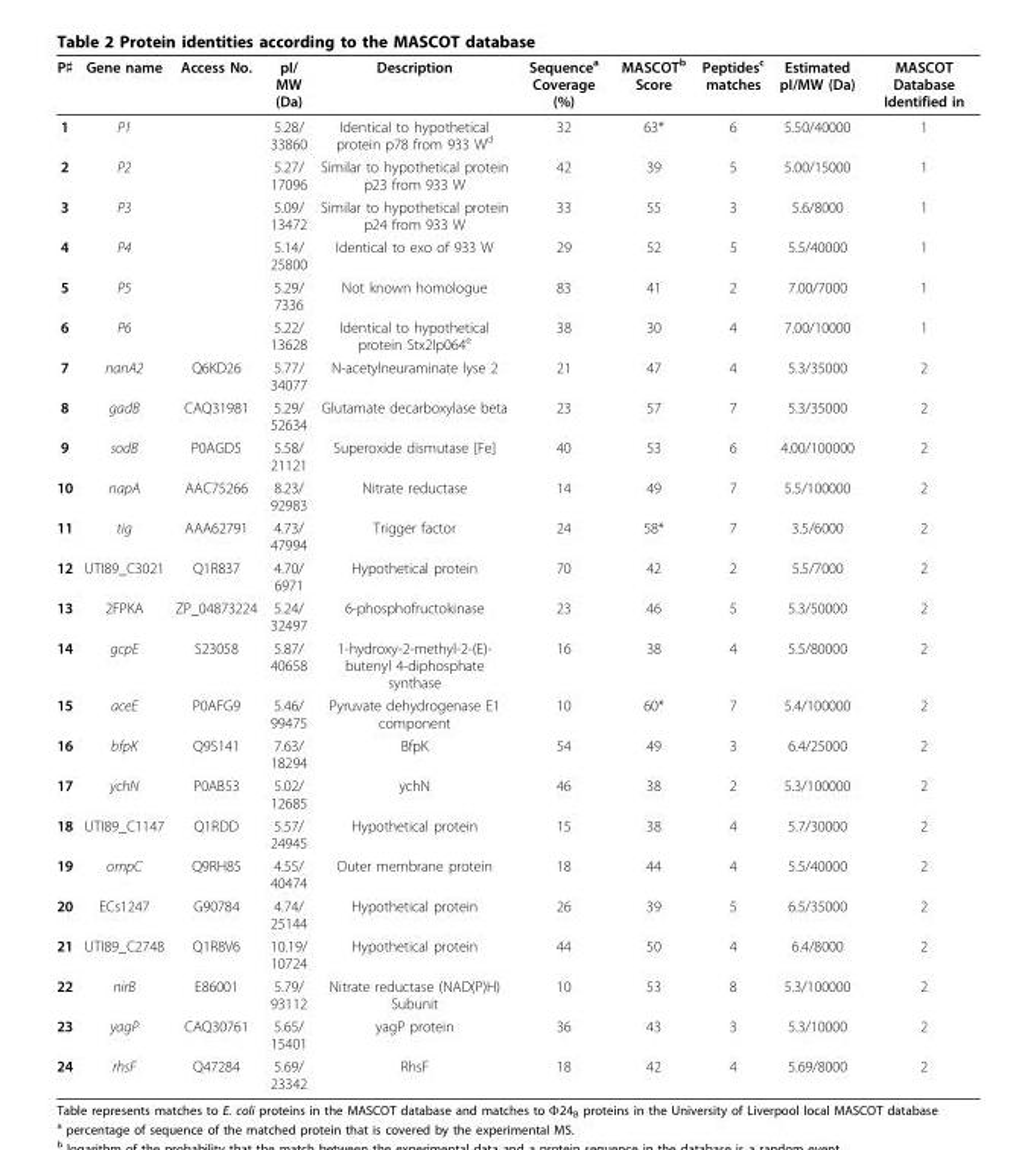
<table><thead><tr><td>P♯</td><td>Gene name</td><td>Access No.</td><td>pI/ MW (Da)</td><td>Description</td><td>Sequence<sup>a</sup> Coverage (%)</td><td>MASCOT<sup>b</sup> Score</td><td>Peptides<sup>c</sup> matches</td><td>Estimated pI/MW (Da)</td><td>MASCOT Database Identified in</td></tr></thead><tbody><tr><td>1</td><td>P1</td><td></td><td>5.28/ 33860</td><td>Identical to hypothetical protein p78 from 933 W<sup>d</sup></td><td>32</td><td>63*</td><td>6</td><td>5.50/40000</td><td>1</td></tr><tr><td>2</td><td>P2</td><td></td><td>5.27/ 17096</td><td>Similar to hypothetical protein p23 from 933 W</td><td>42</td><td>39</td><td>5</td><td>5.00/15000</td><td>1</td></tr><tr><td>3</td><td>P3</td><td></td><td>5.09/ 13472</td><td>Similar to hypothetical protein p24 from 933 W</td><td>33</td><td>55</td><td>3</td><td>5.6/8000</td><td>1</td></tr><tr><td>4</td><td>P4</td><td></td><td>5.14/ 25800</td><td>Identical to exo of 933 W</td><td>29</td><td>52</td><td>5</td><td>5.5/40000</td><td>1</td></tr><tr><td>5</td><td>P5</td><td></td><td>5.29/ 7336</td><td>Not known homologue</td><td>83</td><td>41</td><td>2</td><td>7.00/7000</td><td>1</td></tr><tr><td>6</td><td>P6</td><td></td><td>5.22/ 13628</td><td>Identical to hypothetical protein Stx2Ip064<sup>e</sup></td><td>38</td><td>30</td><td>4</td><td>7.00/10000</td><td>1</td></tr><tr><td>7</td><td>nanA2</td><td>Q6KD26</td><td>5.77/ 34077</td><td>N-acetylneuraminate lyse 2</td><td>21</td><td>47</td><td>4</td><td>5.3/35000</td><td>2</td></tr><tr><td>8</td><td>gadB</td><td>CAQ31981</td><td>5.29/ 52634</td><td>Glutamate decarboxylase beta</td><td>23</td><td>57</td><td>7</td><td>5.3/35000</td><td>2</td></tr><tr><td>9</td><td>sodB</td><td>P0AGD5</td><td>5.58/ 21121</td><td>Superoxide dismutase [Fe]</td><td>40</td><td>53</td><td>6</td><td>4.00/100000</td><td>2</td></tr><tr><td>10</td><td>napA</td><td>AAC75266</td><td>8.23/ 92983</td><td>Nitrate reductase</td><td>14</td><td>49</td><td>7</td><td>5.5/100000</td><td>2</td></tr><tr><td>11</td><td>tig</td><td>AAA62791</td><td>4.73/ 47994</td><td>Trigger factor</td><td>24</td><td>58*</td><td>7</td><td>3.5/6000</td><td>2</td></tr><tr><td>12</td><td>UTI89_C3021</td><td>Q1R837</td><td>4.70/ 6971</td><td>Hypothetical protein</td><td>70</td><td>42</td><td>2</td><td>5.5/7000</td><td>2</td></tr><tr><td>13</td><td>2FPKA</td><td>ZP_04873224</td><td>5.24/ 32497</td><td>6-phosphofructokinase</td><td>23</td><td>46</td><td>5</td><td>5.3/50000</td><td>2</td></tr><tr><td>14</td><td>gcpE</td><td>S23058</td><td>5.87/ 40658</td><td>1-hydroxy-2-methyl-2-(E)- butenyl 4-diphosphate synthase</td><td>16</td><td>38</td><td>4</td><td>5.5/80000</td><td>2</td></tr><tr><td>15</td><td>aceE</td><td>P0AFG9</td><td>5.46/ 99475</td><td>Pyruvate dehydrogenase E1 component</td><td>10</td><td>60*</td><td>7</td><td>5.4/100000</td><td>2</td></tr><tr><td>16</td><td>bfpK</td><td>Q9S141</td><td>7.63/ 18294</td><td>BfpK</td><td>54</td><td>49</td><td>3</td><td>6.4/25000</td><td>2</td></tr><tr><td>17</td><td>ychN</td><td>P0AB53</td><td>5.02/ 12685</td><td>ychN</td><td>46</td><td>38</td><td>2</td><td>5.3/100000</td><td>2</td></tr><tr><td>18</td><td>UTI89_C1147</td><td>Q1RDD</td><td>5.57/ 24945</td><td>Hypothetical protein</td><td>15</td><td>38</td><td>4</td><td>5.7/30000</td><td>2</td></tr><tr><td>19</td><td>ompC</td><td>Q9RH85</td><td>4.55/ 40474</td><td>Outer membrane protein</td><td>18</td><td>44</td><td>4</td><td>5.5/40000</td><td>2</td></tr><tr><td>20</td><td>ECs1247</td><td>G90784</td><td>4.74/ 25144</td><td>Hypothetical protein</td><td>26</td><td>39</td><td>5</td><td>6.5/35000</td><td>2</td></tr><tr><td>21</td><td>UTI89_C2748</td><td>Q1R8V6</td><td>10.19/ 10724</td><td>Hypothetical protein</td><td>44</td><td>50</td><td>4</td><td>6.4/8000</td><td>2</td></tr><tr><td>22</td><td>nirB</td><td>E86001</td><td>5.79/ 93112</td><td>Nitrate reductase (NAD(P)H) Subunit</td><td>10</td><td>53</td><td>8</td><td>5.3/100000</td><td>2</td></tr><tr><td>23</td><td>yagP</td><td>CAQ30761</td><td>5.65/ 15401</td><td>yagP protein</td><td>36</td><td>43</td><td>3</td><td>5.3/10000</td><td>2</td></tr><tr><td>24</td><td>rhsF</td><td>Q47284</td><td>5.69/ 23342</td><td>RhsF</td><td>18</td><td>42</td><td>4</td><td>5.69/8000</td><td>2</td></tr></tbody></table>